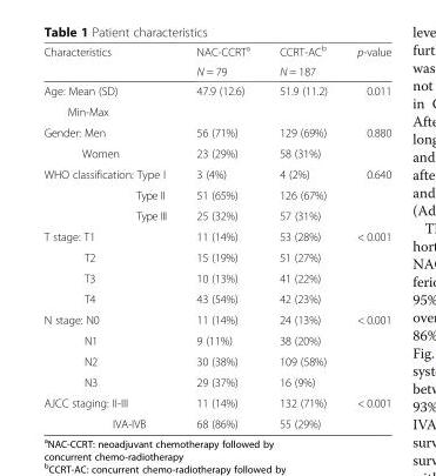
<table><thead><tr><td rowspan="2">Characteristics</td><td rowspan="2">NAC-CCRT<sup>a</sup> N = 79</td><td rowspan="2">CCRT-AC<sup>b</sup> N = 187</td><td rowspan="2">p-value</td></tr><tr></tr></thead><tbody><tr><td>Age: Mean (SD)</td><td>47.9 (12.6)</td><td>51.9 (11.2)</td><td>0.011</td></tr><tr><td colspan="4">Min-Max</td></tr><tr><td>Gender: Men</td><td>56 (71%)</td><td>129 (69%)</td><td>0.880</td></tr><tr><td>Women</td><td>23 (29%)</td><td>58 (31%)</td><td></td></tr><tr><td>WHO classification: Type I</td><td>3 (4%)</td><td>4 (2%)</td><td>0.640</td></tr><tr><td>Type II</td><td>51 (65%)</td><td>126 (67%)</td><td></td></tr><tr><td>Type III</td><td>25 (32%)</td><td>57 (31%)</td><td></td></tr><tr><td>T stage: T1</td><td>11 (14%)</td><td>53 (28%)</td><td>&lt; 0.001</td></tr><tr><td>T2</td><td>15 (19%)</td><td>51 (27%)</td><td></td></tr><tr><td>T3</td><td>10 (13%)</td><td>41 (22%)</td><td></td></tr><tr><td>T4</td><td>43 (54%)</td><td>42 (23%)</td><td></td></tr><tr><td>N stage: N0</td><td>11 (14%)</td><td>24 (13%)</td><td>&lt; 0.001</td></tr><tr><td>N1</td><td>9 (11%)</td><td>38 (20%)</td><td></td></tr><tr><td>N2</td><td>30 (38%)</td><td>109 (58%)</td><td></td></tr><tr><td>N3</td><td>29 (37%)</td><td>16 (9%)</td><td></td></tr><tr><td>AJCC staging: II-III</td><td>11 (14%)</td><td>132 (71%)</td><td>&lt; 0.001</td></tr><tr><td>IVA-IVB</td><td>68 (86%)</td><td>55 (29%)</td><td></td></tr></tbody></table>